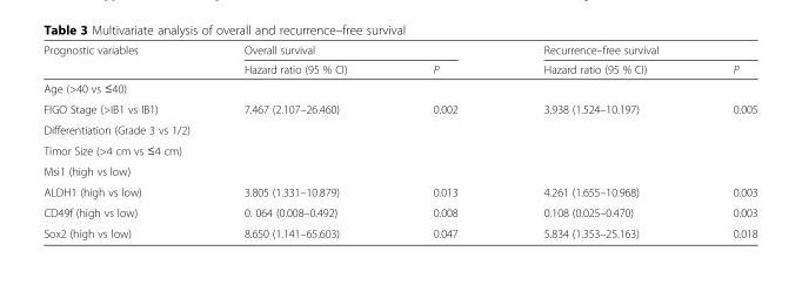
<table><thead><tr><td rowspan="2">Prognostic variables</td><td colspan="2">Overall survival</td><td colspan="2">Recurrence–free survival</td></tr><tr><td>Hazard ratio (95 % CI)</td><td>P</td><td>Hazard ratio (95 % CI)</td><td>P</td></tr></thead><tbody><tr><td colspan="5">Age (&gt;40 vs ≤40)</td></tr><tr><td>FIGO Stage (&gt;IB1 vs IB1)</td><td>7.467 (2.107–26.460)</td><td>0.002</td><td>3.938 (1.524–10.197)</td><td>0.005</td></tr><tr><td colspan="5">Differentiation (Grade 3 vs 1/2)</td></tr><tr><td colspan="5">Timor Size (&gt;4 cm vs ≤4 cm)</td></tr><tr><td colspan="5">Msi1 (high vs low)</td></tr><tr><td>ALDH1 (high vs low)</td><td>3.805 (1.331–10.879)</td><td>0.013</td><td>4.261 (1.655–10.968)</td><td>0.003</td></tr><tr><td>CD49f (high vs low)</td><td>0. 064 (0.008–0.492)</td><td>0.008</td><td>0.108 (0.025–0.470)</td><td>0.003</td></tr><tr><td>Sox2 (high vs low)</td><td>8.650 (1.141–65.603)</td><td>0.047</td><td>5.834 (1.353–25.163)</td><td>0.018</td></tr></tbody></table>